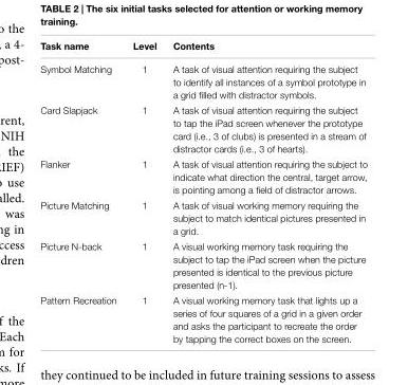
<table><thead><tr><td>Task name</td><td>Level</td><td>Contents</td></tr></thead><tbody><tr><td>Symbol Matching</td><td>1</td><td>A task of visual attention requiring the subject to identify all instances of a symbol prototype in a grid filled with distractor symbols.</td></tr><tr><td>Card Slapjack</td><td>1</td><td>A task of visual attention requiring the subject to tap the iPad screen whenever the prototype card (i.e., 3 of clubs) is presented in a stream of distractor cards (i.e., 3 of hearts).</td></tr><tr><td>Flanker</td><td>1</td><td>A task of visual attention requiring the subject to indicate what direction the central, target arrow, is pointing among a field of distractor arrows.</td></tr><tr><td>Picture Matching</td><td>1</td><td>A task of visual working memory requiring the subject to match identical pictures presented in a grid.</td></tr><tr><td>Picture N-back</td><td>1</td><td>A visual working memory task requiring the subject to tap the iPad screen when the picture presented is identical to the previous picture presented (n-1).</td></tr><tr><td>Pattern Recreation</td><td>1</td><td>A visual working memory task that lights up a series of four squares of a grid in a given order and asks the participant to recreate the order by tapping the correct boxes on the screen.</td></tr></tbody></table>